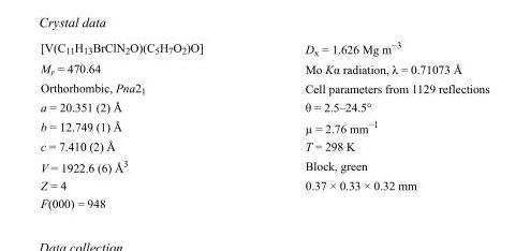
<table><tbody><tr><td>[V(C<sub>11</sub>H<sub>13</sub>BrClN<sub>2</sub>O)(C<sub>5</sub>H<sub>7</sub>O<sub>2</sub>)O]</td><td>D<sub>x</sub> = 1.626 Mg m<sup>−3</sup></td></tr><tr><td>M<sub>r</sub> = 470.64</td><td>Mo Kα radiation, λ = 0.71073 Å</td></tr><tr><td>Orthorhombic, Pna2<sub>1</sub></td><td>Cell parameters from 1129 reflections</td></tr><tr><td>a = 20.351 (2) Å</td><td>θ = 2.5–24.5°</td></tr><tr><td>b = 12.749 (1) Å</td><td>µ = 2.76 mm<sup>−1</sup></td></tr><tr><td>c = 7.410 (2) Å</td><td>T = 298 K</td></tr><tr><td>V = 1922.6 (6) Å<sup>3</sup></td><td>Block, green</td></tr><tr><td>Z = 4</td><td>0.37 × 0.33 × 0.32 mm</td></tr><tr><td>F(000) = 948</td><td></td></tr></tbody></table>